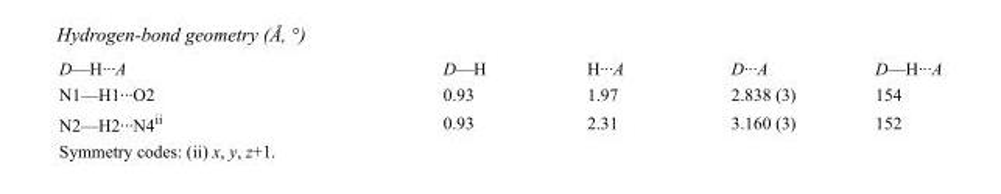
<table><tbody><tr><td>D—H···A</td><td>D—H</td><td>H···A</td><td>D···A</td><td>D—H···A</td></tr><tr><td>N1—H1···O2</td><td>0.93</td><td>1.97</td><td>2.838 (3)</td><td>154</td></tr><tr><td>N2—H2···N4<sup>ii</sup></td><td>0.93</td><td>2.31</td><td>3.160 (3)</td><td>152</td></tr></tbody></table>